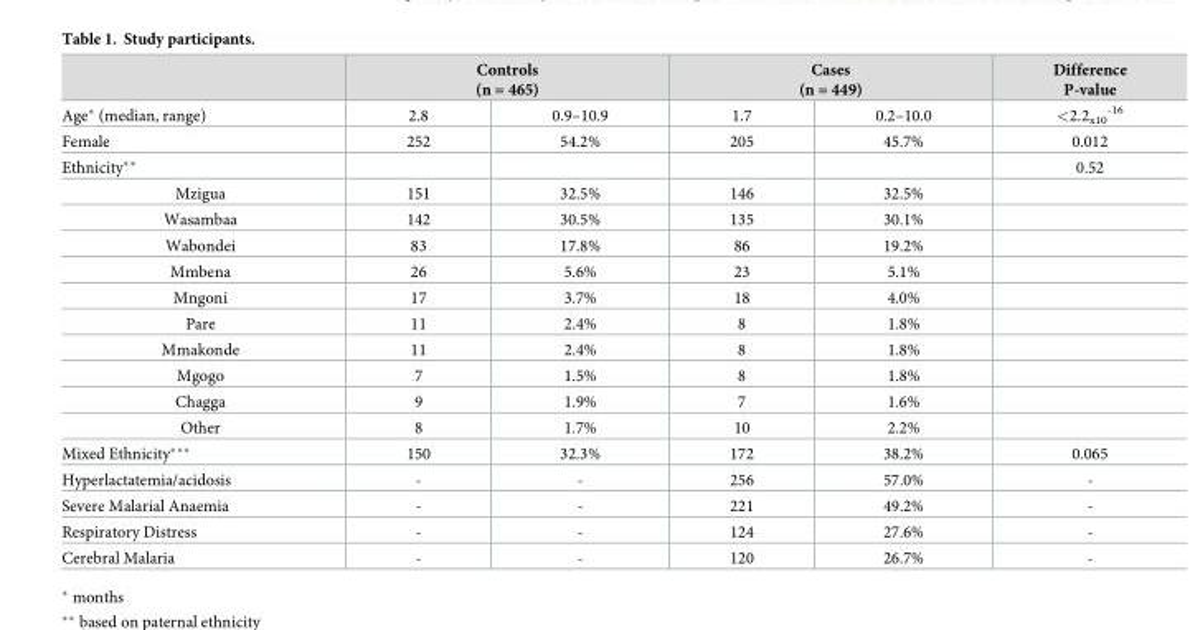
<table><thead><tr><td rowspan="2">Age* (median, range)</td><td colspan="2">Controls (n = 465)</td><td colspan="2">Cases (n = 449)</td><td rowspan="2">Difference P-value &lt;2.2<sub>x10</sub> <sup>-16</sup></td></tr><tr><td>2.8</td><td>0.9–10.9</td><td>1.7</td><td>0.2–10.0</td></tr></thead><tbody><tr><td>Female</td><td>252</td><td>54.2%</td><td>205</td><td>45.7%</td><td>0.012</td></tr><tr><td>Ethnicity**</td><td></td><td></td><td></td><td></td><td>0.52</td></tr><tr><td>Mzigua</td><td>151</td><td>32.5%</td><td>146</td><td>32.5%</td><td></td></tr><tr><td>Wasambaa</td><td>142</td><td>30.5%</td><td>135</td><td>30.1%</td><td></td></tr><tr><td>Wabondei</td><td>83</td><td>17.8%</td><td>86</td><td>19.2%</td><td></td></tr><tr><td>Mmbena</td><td>26</td><td>5.6%</td><td>23</td><td>5.1%</td><td></td></tr><tr><td>Mngoni</td><td>17</td><td>3.7%</td><td>18</td><td>4.0%</td><td></td></tr><tr><td>Pare</td><td>11</td><td>2.4%</td><td>8</td><td>1.8%</td><td></td></tr><tr><td>Mmakonde</td><td>11</td><td>2.4%</td><td>8</td><td>1.8%</td><td></td></tr><tr><td>Mgogo</td><td>7</td><td>1.5%</td><td>8</td><td>1.8%</td><td></td></tr><tr><td>Chagga</td><td>9</td><td>1.9%</td><td>7</td><td>1.6%</td><td></td></tr><tr><td>Other</td><td>8</td><td>1.7%</td><td>10</td><td>2.2%</td><td></td></tr><tr><td>Mixed Ethnicity***</td><td>150</td><td>32.3%</td><td>172</td><td>38.2%</td><td>0.065</td></tr><tr><td>Hyperlactatemia/acidosis</td><td>-</td><td>-</td><td>256</td><td>57.0%</td><td>-</td></tr><tr><td>Severe Malarial Anaemia</td><td>-</td><td>-</td><td>221</td><td>49.2%</td><td>-</td></tr><tr><td>Respiratory Distress</td><td>-</td><td>-</td><td>124</td><td>27.6%</td><td>-</td></tr><tr><td>Cerebral Malaria</td><td>-</td><td>-</td><td>120</td><td>26.7%</td><td>-</td></tr></tbody></table>